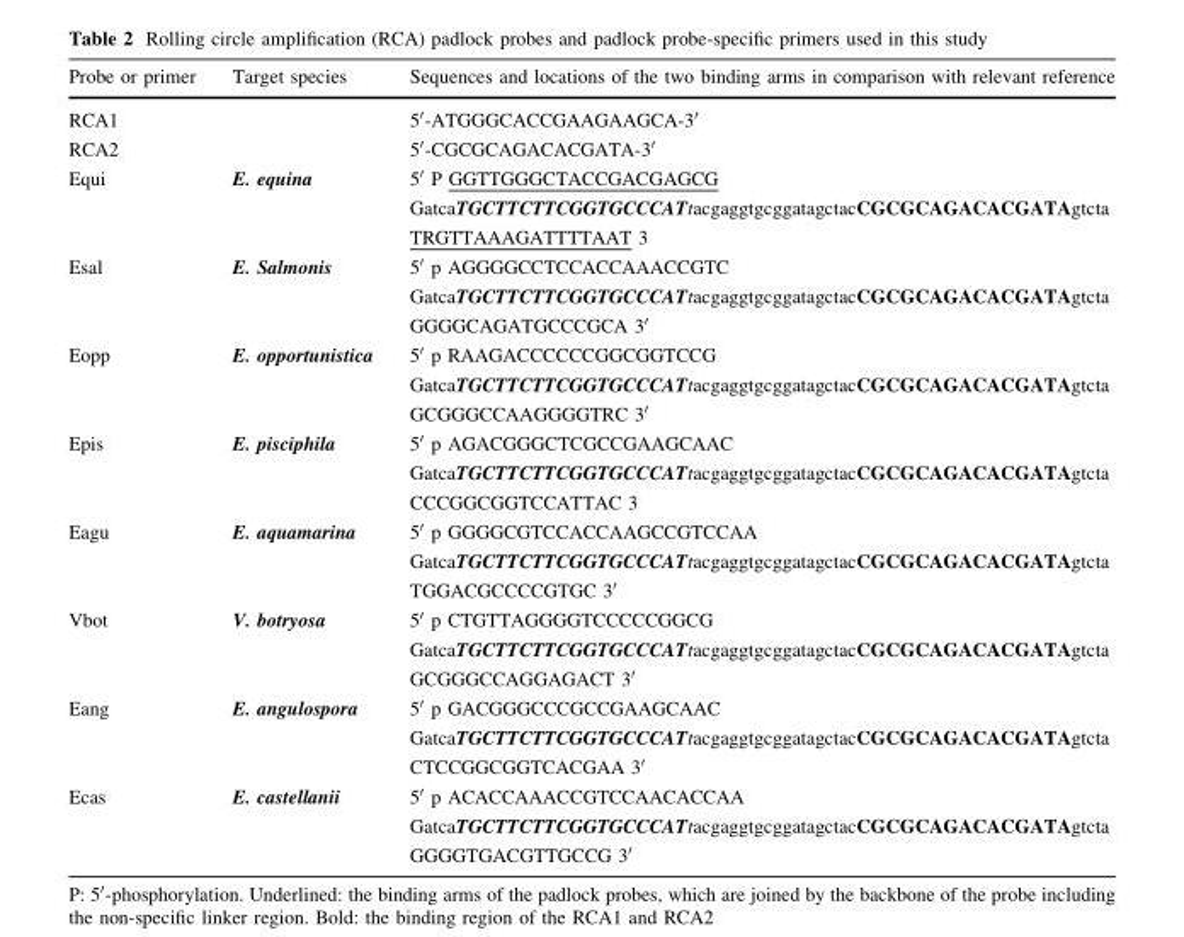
<table><thead><tr><td>Probe or primer</td><td>Target species</td><td>Sequences and locations of the two binding arms in comparison with relevant reference</td></tr></thead><tbody><tr><td>RCA1</td><td></td><td>5′-ATGGGCACCGAAGAAGCA-3′</td></tr><tr><td>RCA2</td><td></td><td>5′-CGCGCAGACACGATA-3′</td></tr><tr><td rowspan="3">Equi</td><td>E. equina</td><td>5′ P GGTTGGGCTACCGACGAGCG</td></tr><tr><td></td><td>GatcaTGCTTCTTCGGTGCCCATtacgaggtgcggatagctacCGCGCAGACACGATAgtcta</td></tr><tr><td></td><td>TRGTTAAAGATTTTAAT 3</td></tr><tr><td rowspan="3">Esal</td><td>E. Salmonis</td><td>5′ p AGGGGCCTCCACCAAACCGTC</td></tr><tr><td></td><td>GatcaTGCTTCTTCGGTGCCCATtacgaggtgcggatagctacCGCGCAGACACGATAgtcta</td></tr><tr><td></td><td>GGGGCAGATGCCCGCA 3′</td></tr><tr><td rowspan="3">Eopp</td><td>E. opportunistica</td><td>5′ p RAAGACCCCCCGGCGGTCCG</td></tr><tr><td></td><td>GatcaTGCTTCTTCGGTGCCCATtacgaggtgcggatagctacCGCGCAGACACGATAgtcta</td></tr><tr><td></td><td>GCGGGCCAAGGGGTRC 3′</td></tr><tr><td rowspan="3">Epis</td><td>E. pisciphila</td><td>5′ p AGACGGGCTCGCCGAAGCAAC</td></tr><tr><td></td><td>GatcaTGCTTCTTCGGTGCCCATtacgaggtgcggatagctacCGCGCAGACACGATAgtcta</td></tr><tr><td></td><td>CCCGGCGGTCCATTAC 3</td></tr><tr><td rowspan="3">Eagu</td><td>E. aquamarina</td><td>5′ p GGGGCGTCCACCAAGCCGTCCAA</td></tr><tr><td></td><td>GatcaTGCTTCTTCGGTGCCCATtacgaggtgcggatagctacCGCGCAGACACGATAgtcta</td></tr><tr><td></td><td>TGGACGCCCCGTGC 3′</td></tr><tr><td rowspan="3">Vbot</td><td>V. botryosa</td><td>5′ p CTGTTAGGGGTCCCCCGGCG</td></tr><tr><td></td><td>GatcaTGCTTCTTCGGTGCCCATtacgaggtgcggatagctacCGCGCAGACACGATAgtcta</td></tr><tr><td></td><td>GCGGGCCAGGAGACT 3′</td></tr><tr><td rowspan="3">Eang</td><td>E. angulospora</td><td>5′ p GACGGGCCCGCCGAAGCAAC</td></tr><tr><td></td><td>GatcaTGCTTCTTCGGTGCCCATtacgaggtgcggatagctacCGCGCAGACACGATAgtcta</td></tr><tr><td></td><td>CTCCGGCGGTCACGAA 3′</td></tr><tr><td rowspan="3">Ecas</td><td>E. castellanii</td><td>5′ p ACACCAAACCGTCCAACACCAA</td></tr><tr><td></td><td>GatcaTGCTTCTTCGGTGCCCATtacgaggtgcggatagctacCGCGCAGACACGATAgtcta</td></tr><tr><td></td><td>GGGGTGACGTTGCCG 3′</td></tr></tbody></table>